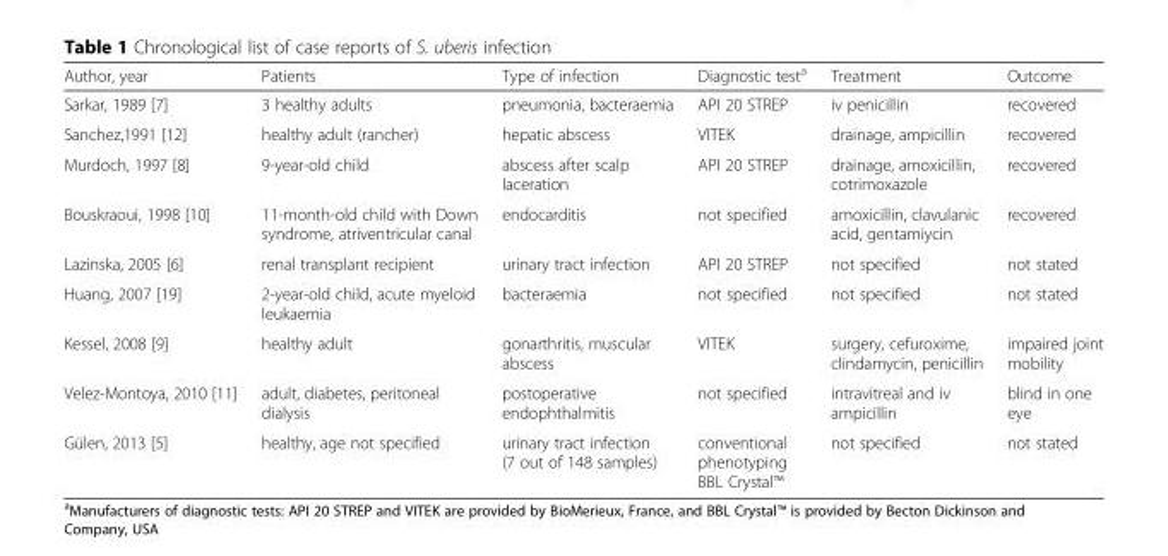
<table><thead><tr><td>Author, year</td><td>Patients</td><td>Type of infection</td><td>Diagnostic test<sup>a</sup></td><td>Treatment</td><td>Outcome</td></tr></thead><tbody><tr><td>Sarkar, 1989 [7]</td><td>3 healthy adults</td><td>pneumonia, bacteraemia</td><td>API 20 STREP</td><td>iv penicillin</td><td>recovered</td></tr><tr><td>Sanchez,1991 [12]</td><td>healthy adult (rancher)</td><td>hepatic abscess</td><td>VITEK</td><td>drainage, ampicillin</td><td>recovered</td></tr><tr><td>Murdoch, 1997 [8]</td><td>9-year-old child</td><td>abscess after scalp laceration</td><td>API 20 STREP</td><td>drainage, amoxicillin, cotrimoxazole</td><td>recovered</td></tr><tr><td>Bouskraoui, 1998 [10]</td><td>11-month-old child with Down syndrome, atriventricular canal</td><td>endocarditis</td><td>not specified</td><td>amoxicillin, clavulanic acid, gentamiycin</td><td>recovered</td></tr><tr><td>Lazinska, 2005 [6]</td><td>renal transplant recipient</td><td>urinary tract infection</td><td>API 20 STREP</td><td>not specified</td><td>not stated</td></tr><tr><td>Huang, 2007 [19]</td><td>2-year-old child, acute myeloid leukaemia</td><td>bacteraemia</td><td>not specified</td><td>not specified</td><td>not stated</td></tr><tr><td>Kessel, 2008 [9]</td><td>healthy adult</td><td>gonarthritis, muscular abscess</td><td>VITEK</td><td>surgery, cefuroxime, clindamycin, penicillin</td><td>impaired joint mobility</td></tr><tr><td>Velez-Montoya, 2010 [11]</td><td>adult, diabetes, peritoneal dialysis</td><td>postoperative endophthalmitis</td><td>not specified</td><td>intravitreal and iv ampicillin</td><td>blind in one eye</td></tr><tr><td>Gülen, 2013 [5]</td><td>healthy, age not specified</td><td>urinary tract infection (7 out of 148 samples)</td><td>conventional phenotyping BBL Crystal™</td><td>not specified</td><td>not stated</td></tr></tbody></table>